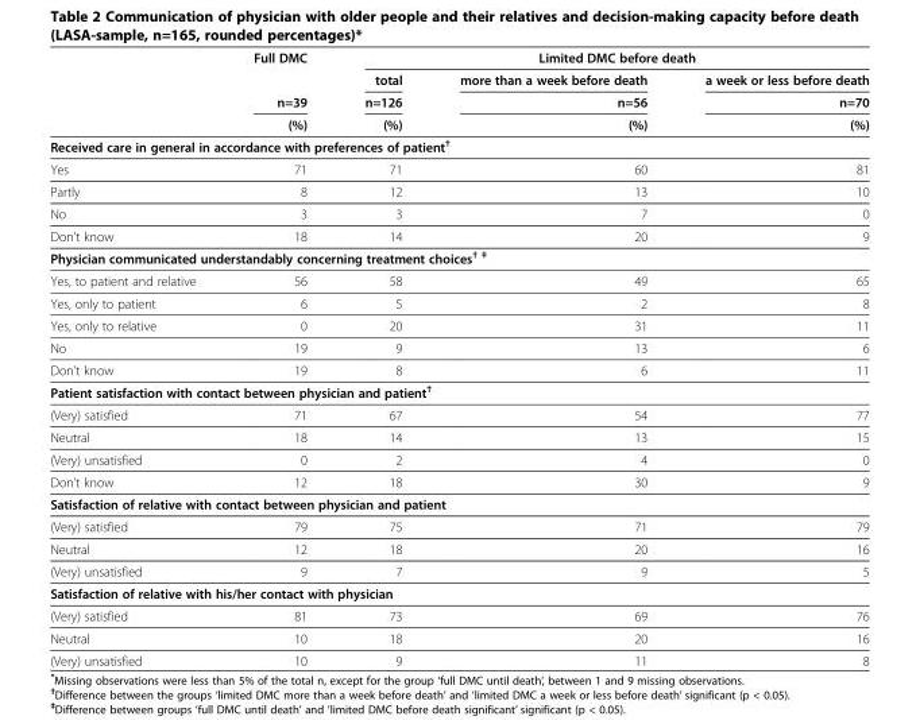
<table><thead><tr><td rowspan="4"></td><td rowspan="4">Full DMC n=39 (%)</td><td colspan="3">Limited DMC before death</td></tr><tr><td rowspan="3">total n=126 (%)</td><td rowspan="3">more than a week before death n=56 (%)</td><td rowspan="3">a week or less before death n=70 (%)</td></tr><tr></tr><tr></tr></thead><tbody><tr><td colspan="5">Received care in general in accordance with preferences of patient<sup>†</sup></td></tr><tr><td>Yes</td><td>71</td><td>71</td><td>60</td><td>81</td></tr><tr><td>Partly</td><td>8</td><td>12</td><td>13</td><td>10</td></tr><tr><td>No</td><td>3</td><td>3</td><td>7</td><td>0</td></tr><tr><td>Don’t know</td><td>18</td><td>14</td><td>20</td><td>9</td></tr><tr><td colspan="5">Physician communicated understandably concerning treatment choices<sup>† ‡</sup></td></tr><tr><td>Yes, to patient and relative</td><td>56</td><td>58</td><td>49</td><td>65</td></tr><tr><td>Yes, only to patient</td><td>6</td><td>5</td><td>2</td><td>8</td></tr><tr><td>Yes, only to relative</td><td>0</td><td>20</td><td>31</td><td>11</td></tr><tr><td>No</td><td>19</td><td>9</td><td>13</td><td>6</td></tr><tr><td>Don’t know</td><td>19</td><td>8</td><td>6</td><td>11</td></tr><tr><td colspan="5">Patient satisfaction with contact between physician and patient<sup>†</sup></td></tr><tr><td>(Very) satisfied</td><td>71</td><td>67</td><td>54</td><td>77</td></tr><tr><td>Neutral</td><td>18</td><td>14</td><td>13</td><td>15</td></tr><tr><td>(Very) unsatisfied</td><td>0</td><td>2</td><td>4</td><td>0</td></tr><tr><td>Don’t know</td><td>12</td><td>18</td><td>30</td><td>9</td></tr><tr><td colspan="5">Satisfaction of relative with contact between physician and patient</td></tr><tr><td>(Very) satisfied</td><td>79</td><td>75</td><td>71</td><td>79</td></tr><tr><td>Neutral</td><td>12</td><td>18</td><td>20</td><td>16</td></tr><tr><td>(Very) unsatisfied</td><td>9</td><td>7</td><td>9</td><td>5</td></tr><tr><td colspan="5">Satisfaction of relative with his/her contact with physician</td></tr><tr><td>(Very) satisfied</td><td>81</td><td>73</td><td>69</td><td>76</td></tr><tr><td>Neutral</td><td>10</td><td>18</td><td>20</td><td>16</td></tr><tr><td>(Very) unsatisfied</td><td>10</td><td>9</td><td>11</td><td>8</td></tr></tbody></table>